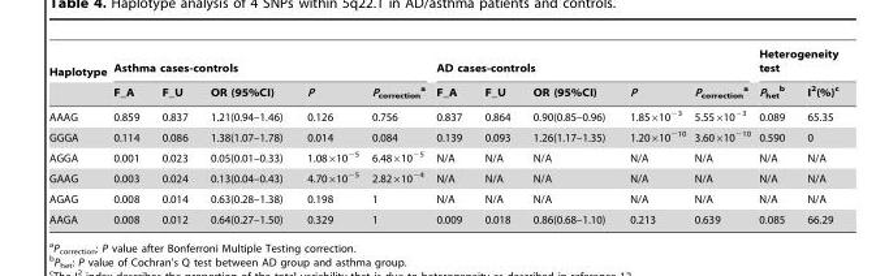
<table><thead><tr><td rowspan="2">Haplotype</td><td colspan="5">Asthma cases-controls</td><td colspan="5">AD cases-controls</td><td colspan="2">Heterogeneity test</td></tr><tr><td>F_A</td><td>F_U</td><td>OR (95%CI)</td><td>P</td><td>P<sub>correction</sub> a</td><td>F_A</td><td>F_U</td><td>OR (95%CI)</td><td>P</td><td>P<sub>correction</sub> a</td><td>P<sub>het</sub> b</td><td>I<sup>2</sup>(%)<sup>c</sup></td></tr></thead><tbody><tr><td>AAAG</td><td>0.859</td><td>0.837</td><td>1.21(0.94–1.46)</td><td>0.126</td><td>0.756</td><td>0.837</td><td>0.864</td><td>0.90(0.85–0.96)</td><td>1.85×10<sup>−3</sup></td><td>5.55×10<sup>−3</sup></td><td>0.089</td><td>65.35</td></tr><tr><td>GGGA</td><td>0.114</td><td>0.086</td><td>1.38(1.07–1.78)</td><td>0.014</td><td>0.084</td><td>0.139</td><td>0.093</td><td>1.26(1.17–1.35)</td><td>1.20×10<sup>−10</sup></td><td>3.60×10<sup>−10</sup></td><td>0.590</td><td>0</td></tr><tr><td>AGGA</td><td>0.001</td><td>0.023</td><td>0.05(0.01–0.33)</td><td>1.08×10<sup>−5</sup></td><td>6.48×10<sup>−5</sup></td><td>N/A</td><td>N/A</td><td>N/A</td><td>N/A</td><td>N/A</td><td>N/A</td><td>N/A</td></tr><tr><td>GAAG</td><td>0.003</td><td>0.024</td><td>0.13(0.04–0.43)</td><td>4.70×10<sup>−5</sup></td><td>2.82×10<sup>−4</sup></td><td>N/A</td><td>N/A</td><td>N/A</td><td>N/A</td><td>N/A</td><td>N/A</td><td>N/A</td></tr><tr><td>AGAG</td><td>0.008</td><td>0.014</td><td>0.63(0.28–1.38)</td><td>0.198</td><td>1</td><td>N/A</td><td>N/A</td><td>N/A</td><td>N/A</td><td>N/A</td><td>N/A</td><td>N/A</td></tr><tr><td>AAGA</td><td>0.008</td><td>0.012</td><td>0.64(0.27–1.50)</td><td>0.329</td><td>1</td><td>0.009</td><td>0.018</td><td>0.86(0.68–1.10)</td><td>0.213</td><td>0.639</td><td>0.085</td><td>66.29</td></tr></tbody></table>